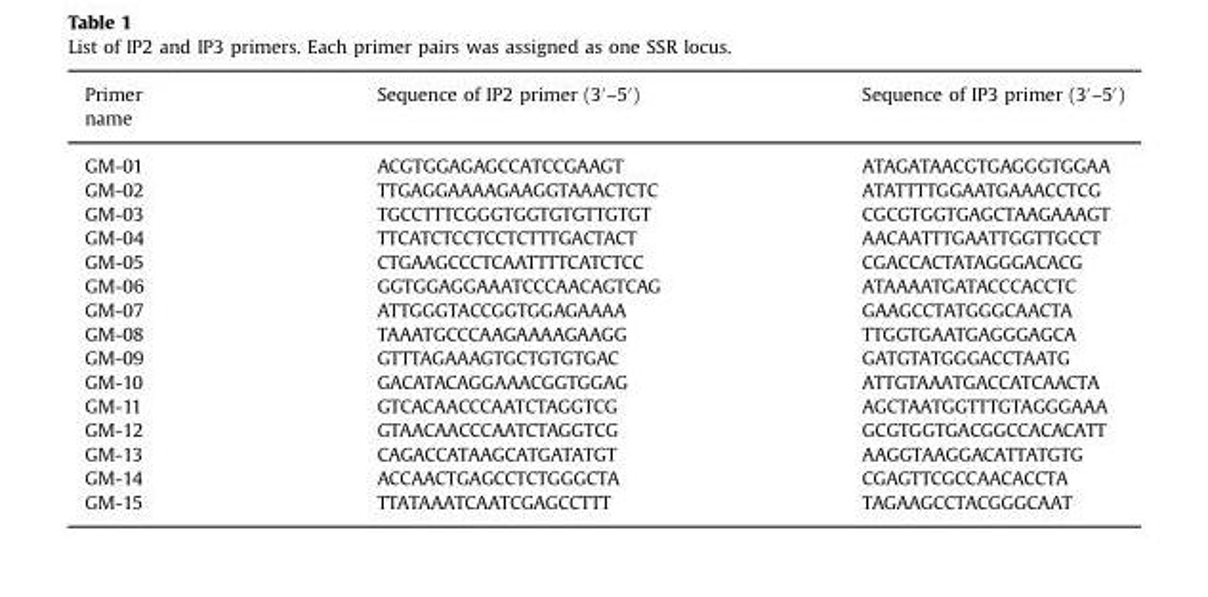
<table><thead><tr><td>Primer name</td><td>Sequence of IP2 primer (3′–5′)</td><td>Sequence of IP3 primer (3′–5′)</td></tr></thead><tbody><tr><td>GM-01</td><td>ACGTGGAGAGCCATCCGAAGT</td><td>ATAGATAACGTGAGGGTGGAA</td></tr><tr><td>GM-02</td><td>TTGAGGAAAAGAAGGTAAACTCTC</td><td>ATATTTTGGAATGAAACCTCG</td></tr><tr><td>GM-03</td><td>TGCCTTTCGGGTGGTGTGTTGTGT</td><td>CGCGTGGTGAGCTAAGAAAGT</td></tr><tr><td>GM-04</td><td>TTCATCTCCTCCTCTTTGACTACT</td><td>AACAATTTGAATTGGTTGCCT</td></tr><tr><td>GM-05</td><td>CTGAAGCCCTCAATTTTCATCTCC</td><td>CGACCACTATAGGGACACG</td></tr><tr><td>GM-06</td><td>GGTGGAGGAAATCCCAACAGTCAG</td><td>ATAAAATGATACCCACCTC</td></tr><tr><td>GM-07</td><td>ATTGGGTACCGGTGGAGAAAA</td><td>GAAGCCTATGGGCAACTA</td></tr><tr><td>GM-08</td><td>TAAATGCCCAAGAAAAGAAGG</td><td>TTGGTGAATGAGGGAGCA</td></tr><tr><td>GM-09</td><td>GTTTAGAAAGTGCTGTGTGAC</td><td>GATGTATGGGACCTAATG</td></tr><tr><td>GM-10</td><td>GACATACAGGAAACGGTGGAG</td><td>ATTGTAAATGACCATCAACTA</td></tr><tr><td>GM-11</td><td>GTCACAACCCAATCTAGGTCG</td><td>AGCTAATGGTTTGTAGGGAAA</td></tr><tr><td>GM-12</td><td>GTAACAACCCAATCTAGGTCG</td><td>GCGTGGTGACGGCCACACATT</td></tr><tr><td>GM-13</td><td>CAGACCATAAGCATGATATGT</td><td>AAGGTAAGGACATTATGTG</td></tr><tr><td>GM-14</td><td>ACCAACTGAGCCTCTGGGCTA</td><td>CGAGTTCGCCAACACCTA</td></tr><tr><td>GM-15</td><td>TTATAAATCAATCGAGCCTTT</td><td>TAGAAGCCTACGGGCAAT</td></tr></tbody></table>